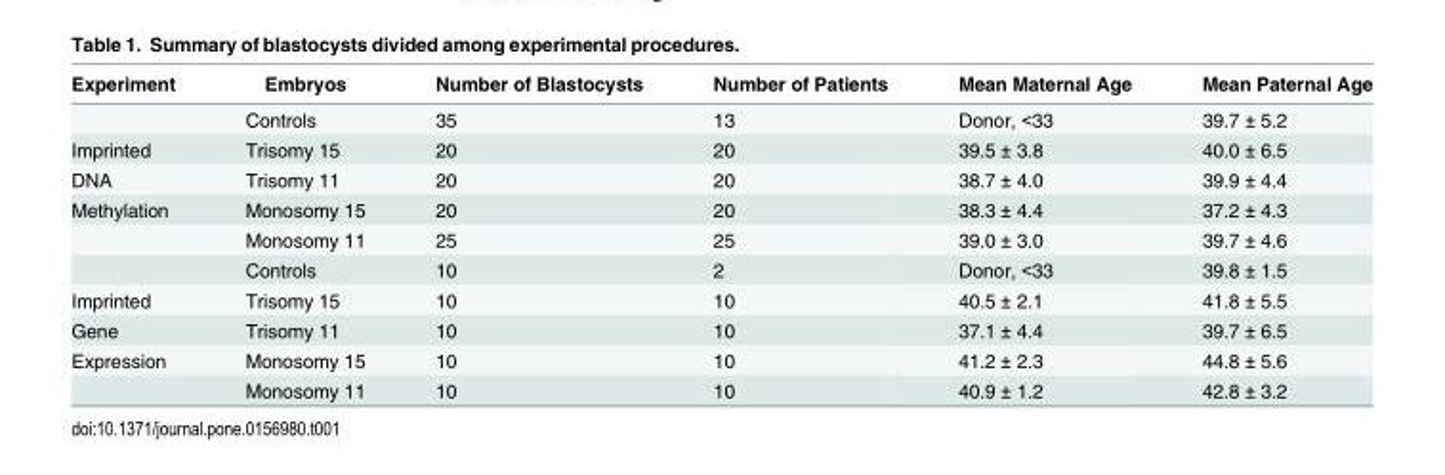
<table><thead><tr><td>Experiment</td><td>Embryos</td><td>Number of Blastocysts</td><td>Number of Patients</td><td>Mean Maternal Age</td><td>Mean Paternal Age</td></tr></thead><tbody><tr><td></td><td>Controls</td><td>35</td><td>13</td><td>Donor, &lt;33</td><td>39.7 ± 5.2</td></tr><tr><td>Imprinted</td><td>Trisomy 15</td><td>20</td><td>20</td><td>39.5 ± 3.8</td><td>40.0 ± 6.5</td></tr><tr><td>DNA</td><td>Trisomy 11</td><td>20</td><td>20</td><td>38.7 ± 4.0</td><td>39.9 ± 4.4</td></tr><tr><td rowspan="3">Methylation</td><td>Monosomy 15</td><td>20</td><td>20</td><td>38.3 ± 4.4</td><td>37.2 ± 4.3</td></tr><tr><td>Monosomy 11</td><td>25</td><td>25</td><td>39.0 ± 3.0</td><td>39.7 ± 4.6</td></tr><tr><td>Controls</td><td>10</td><td>2</td><td>Donor, &lt;33</td><td>39.8 ± 1.5</td></tr><tr><td>Imprinted</td><td>Trisomy 15</td><td>10</td><td>10</td><td>40.5 ± 2.1</td><td>41.8 ± 5.5</td></tr><tr><td>Gene</td><td>Trisomy 11</td><td>10</td><td>10</td><td>37.1 ± 4.4</td><td>39.7 ± 6.5</td></tr><tr><td rowspan="2">Expression</td><td>Monosomy 15</td><td>10</td><td>10</td><td>41.2 ± 2.3</td><td>44.8 ± 5.6</td></tr><tr><td>Monosomy 11</td><td>10</td><td>10</td><td>40.9 ± 1.2</td><td>42.8 ± 3.2</td></tr></tbody></table>